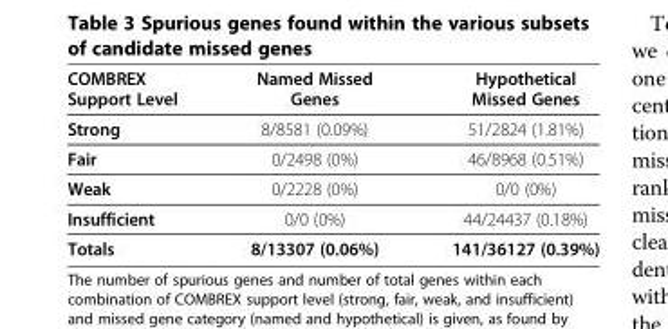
<table><thead><tr><td>COMBREX Support Level</td><td>Named Missed Genes</td><td>Hypothetical Missed Genes</td></tr></thead><tbody><tr><td>Strong</td><td>8/8581 (0.09%)</td><td>51/2824 (1.81%)</td></tr><tr><td>Fair</td><td>0/2498 (0%)</td><td>46/8968 (0.51%)</td></tr><tr><td>Weak</td><td>0/2228 (0%)</td><td>0/0 (0%)</td></tr><tr><td>Insufficient</td><td>0/0 (0%)</td><td>44/24437 (0.18%)</td></tr><tr><td>Totals</td><td>8/13307 (0.06%)</td><td>141/36127 (0.39%)</td></tr></tbody></table>